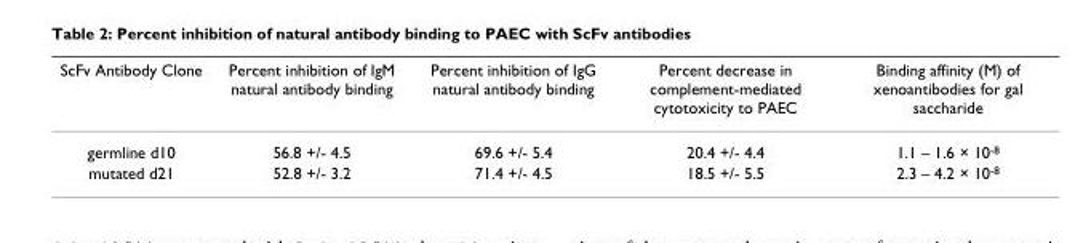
<table><thead><tr><td>ScFv Antibody Clone</td><td>Percent inhibition of IgM natural antibody binding</td><td>Percent inhibition of IgG natural antibody binding</td><td>Percent decrease in complement-mediated cytotoxicity to PAEC</td><td>Binding affinity (M) of xenoantibodies for gal saccharide</td></tr></thead><tbody><tr><td>germline d10</td><td>56.8 +/- 4.5</td><td>69.6 +/- 5.4</td><td>20.4 +/- 4.4</td><td>1.1 – 1.6 × 10-8</td></tr><tr><td>mutated d21</td><td>52.8 +/- 3.2</td><td>71.4 +/- 4.5</td><td>18.5 +/- 5.5</td><td>2.3 – 4.2 × 10-8</td></tr></tbody></table>